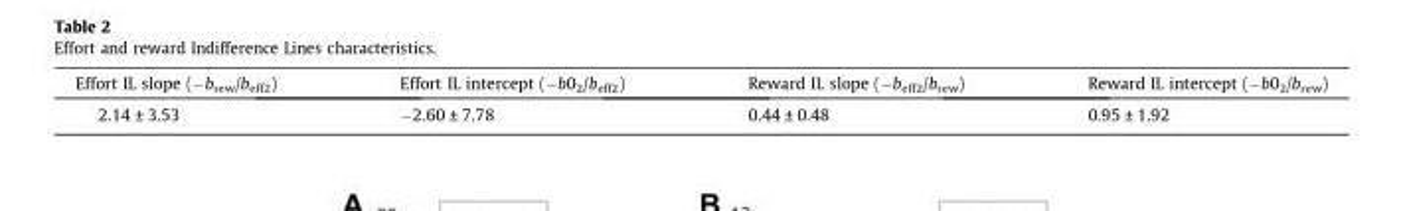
<table><thead><tr><td>Effort IL slope (−b<sub>rew</sub>/b<sub>eff2</sub>)</td><td>Effort IL intercept (−b0<sub>2</sub>/b<sub>eff2</sub>)</td><td>Reward IL slope (−b<sub>eff2</sub>/b<sub>rew</sub>)</td><td>Reward IL intercept (−b0<sub>2</sub>/b<sub>rew</sub>)</td></tr></thead><tbody><tr><td>2.14 ± 3.53</td><td>−2.60 ± 7.78</td><td>0.44 ± 0.48</td><td>0.95 ± 1.92</td></tr></tbody></table>